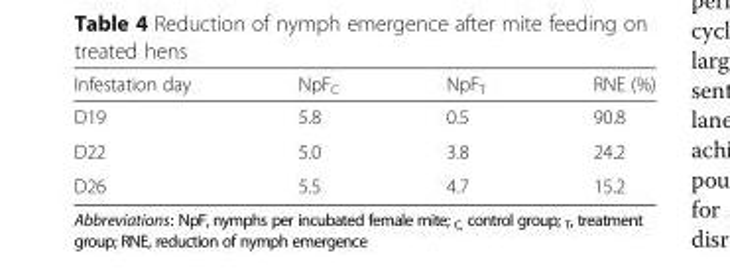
<table><thead><tr><td>Infestation day</td><td>NpF<sub>C</sub></td><td>NpF<sub>T</sub></td><td>RNE (%)</td></tr></thead><tbody><tr><td>D19</td><td>5.8</td><td>0.5</td><td>90.8</td></tr><tr><td>D22</td><td>5.0</td><td>3.8</td><td>24.2</td></tr><tr><td>D26</td><td>5.5</td><td>4.7</td><td>15.2</td></tr></tbody></table>